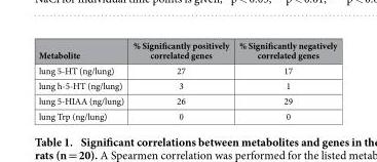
<table><thead><tr><td>Metabolite</td><td>% Significantly positively correlated genes</td><td>% Significantly negatively correlated genes</td></tr></thead><tbody><tr><td>lung 5-HT (ng/lung)</td><td>27</td><td>17</td></tr><tr><td>lung h-5-HT (ng/lung)</td><td>3</td><td>1</td></tr><tr><td>lung 5-HIAA (ng/lung)</td><td>26</td><td>29</td></tr><tr><td>lung Trp (ng/lung)</td><td>0</td><td>0</td></tr></tbody></table>